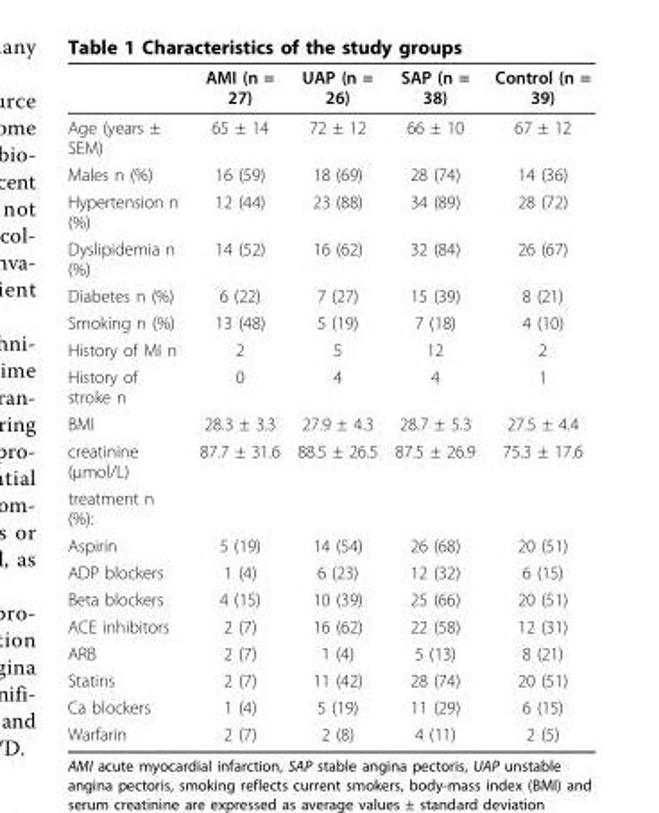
<table><thead><tr><td></td><td>AMI (n = 27)</td><td>UAP (n = 26)</td><td>SAP (n = 38)</td><td>Control (n = 39)</td></tr></thead><tbody><tr><td>Age (years ± SEM)</td><td>65 ± 14</td><td>72 ± 12</td><td>66 ± 10</td><td>67 ± 12</td></tr><tr><td>Males n (%)</td><td>16 (59)</td><td>18 (69)</td><td>28 (74)</td><td>14 (36)</td></tr><tr><td>Hypertension n (%)</td><td>12 (44)</td><td>23 (88)</td><td>34 (89)</td><td>28 (72)</td></tr><tr><td>Dyslipidemia n (%)</td><td>14 (52)</td><td>16 (62)</td><td>32 (84)</td><td>26 (67)</td></tr><tr><td>Diabetes n (%)</td><td>6 (22)</td><td>7 (27)</td><td>15 (39)</td><td>8 (21)</td></tr><tr><td>Smoking n (%)</td><td>13 (48)</td><td>5 (19)</td><td>7 (18)</td><td>4 (10)</td></tr><tr><td>History of MI n</td><td>2</td><td>5</td><td>12</td><td>2</td></tr><tr><td>History of stroke n</td><td>0</td><td>4</td><td>4</td><td>1</td></tr><tr><td>BMI</td><td>28.3 ± 3.3</td><td>27.9 ± 4.3</td><td>28.7 ± 5.3</td><td>27.5 ± 4.4</td></tr><tr><td>creatinine (μmol/L)</td><td>87.7 ± 31.6</td><td>88.5 ± 26.5</td><td>87.5 ± 26.9</td><td>75.3 ± 17.6</td></tr><tr><td colspan="5">treatment n (%):</td></tr><tr><td>Aspirin</td><td>5 (19)</td><td>14 (54)</td><td>26 (68)</td><td>20 (51)</td></tr><tr><td>ADP blockers</td><td>1 (4)</td><td>6 (23)</td><td>12 (32)</td><td>6 (15)</td></tr><tr><td>Beta blockers</td><td>4 (15)</td><td>10 (39)</td><td>25 (66)</td><td>20 (51)</td></tr><tr><td>ACE inhibitors</td><td>2 (7)</td><td>16 (62)</td><td>22 (58)</td><td>12 (31)</td></tr><tr><td>ARB</td><td>2 (7)</td><td>1 (4)</td><td>5 (13)</td><td>8 (21)</td></tr><tr><td>Statins</td><td>2 (7)</td><td>11 (42)</td><td>28 (74)</td><td>20 (51)</td></tr><tr><td>Ca blockers</td><td>1 (4)</td><td>5 (19)</td><td>11 (29)</td><td>6 (15)</td></tr><tr><td>Warfarin</td><td>2 (7)</td><td>2 (8)</td><td>4 (11)</td><td>2 (5)</td></tr></tbody></table>